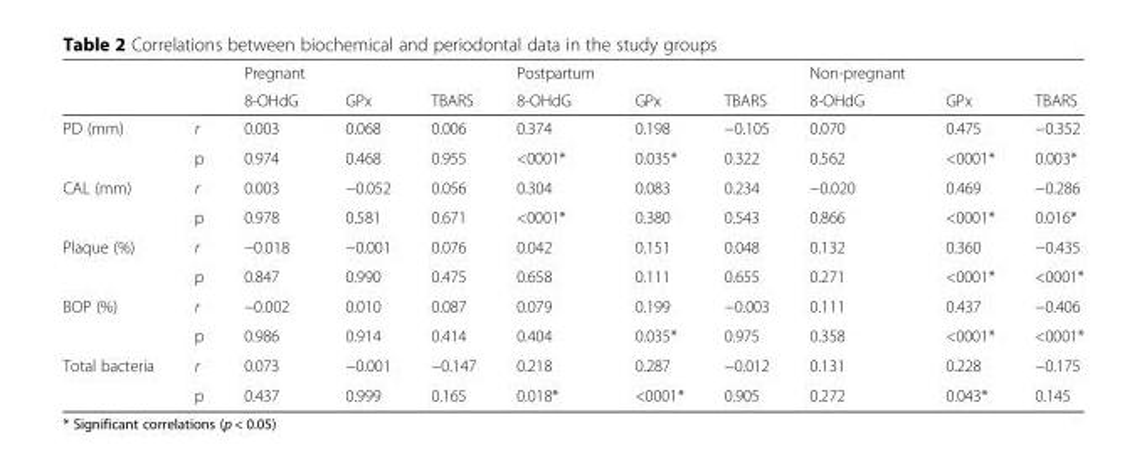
<table><thead><tr><td rowspan="2"></td><td rowspan="2"></td><td rowspan="2">Pregnant 8-OHdG</td><td rowspan="2">GPx</td><td rowspan="2">TBARS</td><td rowspan="2">Postpartum 8-OHdG</td><td rowspan="2">GPx</td><td rowspan="2">TBARS</td><td rowspan="2">Non-pregnant 8-OHdG</td><td rowspan="2">GPx</td><td rowspan="2">TBARS</td></tr><tr></tr></thead><tbody><tr><td rowspan="2">PD (mm)</td><td>r</td><td>0.003</td><td>0.068</td><td>0.006</td><td>0.374</td><td>0.198</td><td>−0.105</td><td>0.070</td><td>0.475</td><td>−0.352</td></tr><tr><td>p</td><td>0.974</td><td>0.468</td><td>0.955</td><td>&lt;0001*</td><td>0.035*</td><td>0.322</td><td>0.562</td><td>&lt;0001*</td><td>0.003*</td></tr><tr><td rowspan="2">CAL (mm)</td><td>r</td><td>0.003</td><td>−0.052</td><td>0.056</td><td>0.304</td><td>0.083</td><td>0.234</td><td>−0.020</td><td>0.469</td><td>−0.286</td></tr><tr><td>p</td><td>0.978</td><td>0.581</td><td>0.671</td><td>&lt;0001*</td><td>0.380</td><td>0.543</td><td>0.866</td><td>&lt;0001*</td><td>0.016*</td></tr><tr><td rowspan="2">Plaque (%)</td><td>r</td><td>−0.018</td><td>−0.001</td><td>0.076</td><td>0.042</td><td>0.151</td><td>0.048</td><td>0.132</td><td>0.360</td><td>−0.435</td></tr><tr><td>p</td><td>0.847</td><td>0.990</td><td>0.475</td><td>0.658</td><td>0.111</td><td>0.655</td><td>0.271</td><td>&lt;0001*</td><td>&lt;0001*</td></tr><tr><td rowspan="2">BOP (%)</td><td>r</td><td>−0.002</td><td>0.010</td><td>0.087</td><td>0.079</td><td>0.199</td><td>−0.003</td><td>0.111</td><td>0.437</td><td>−0.406</td></tr><tr><td>p</td><td>0.986</td><td>0.914</td><td>0.414</td><td>0.404</td><td>0.035*</td><td>0.975</td><td>0.358</td><td>&lt;0001*</td><td>&lt;0001*</td></tr><tr><td rowspan="2">Total bacteria</td><td>r</td><td>0.073</td><td>−0.001</td><td>−0.147</td><td>0.218</td><td>0.287</td><td>−0.012</td><td>0.131</td><td>0.228</td><td>−0.175</td></tr><tr><td>p</td><td>0.437</td><td>0.999</td><td>0.165</td><td>0.018*</td><td>&lt;0001*</td><td>0.905</td><td>0.272</td><td>0.043*</td><td>0.145</td></tr></tbody></table>